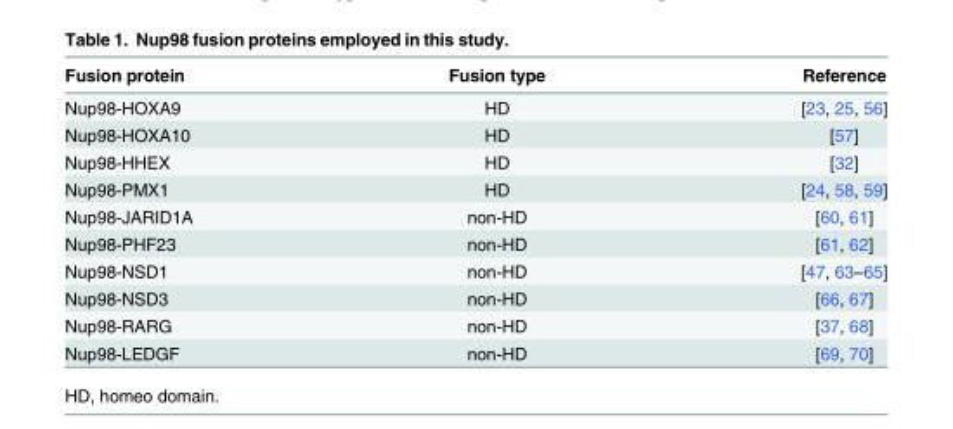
<table><thead><tr><td>Fusion protein</td><td>Fusion type</td><td>Reference</td></tr></thead><tbody><tr><td>Nup98-HOXA9</td><td>HD</td><td>[23, 25, 56]</td></tr><tr><td>Nup98-HOXA10</td><td>HD</td><td>[57]</td></tr><tr><td>Nup98-HHEX</td><td>HD</td><td>[32]</td></tr><tr><td>Nup98-PMX1</td><td>HD</td><td>[24, 58, 59]</td></tr><tr><td>Nup98-JARID1A</td><td>non-HD</td><td>[60, 61]</td></tr><tr><td>Nup98-PHF23</td><td>non-HD</td><td>[61, 62]</td></tr><tr><td>Nup98-NSD1</td><td>non-HD</td><td>[47, 63–65]</td></tr><tr><td>Nup98-NSD3</td><td>non-HD</td><td>[66, 67]</td></tr><tr><td>Nup98-RARG</td><td>non-HD</td><td>[37, 68]</td></tr><tr><td>Nup98-LEDGF</td><td>non-HD</td><td>[69, 70]</td></tr></tbody></table>